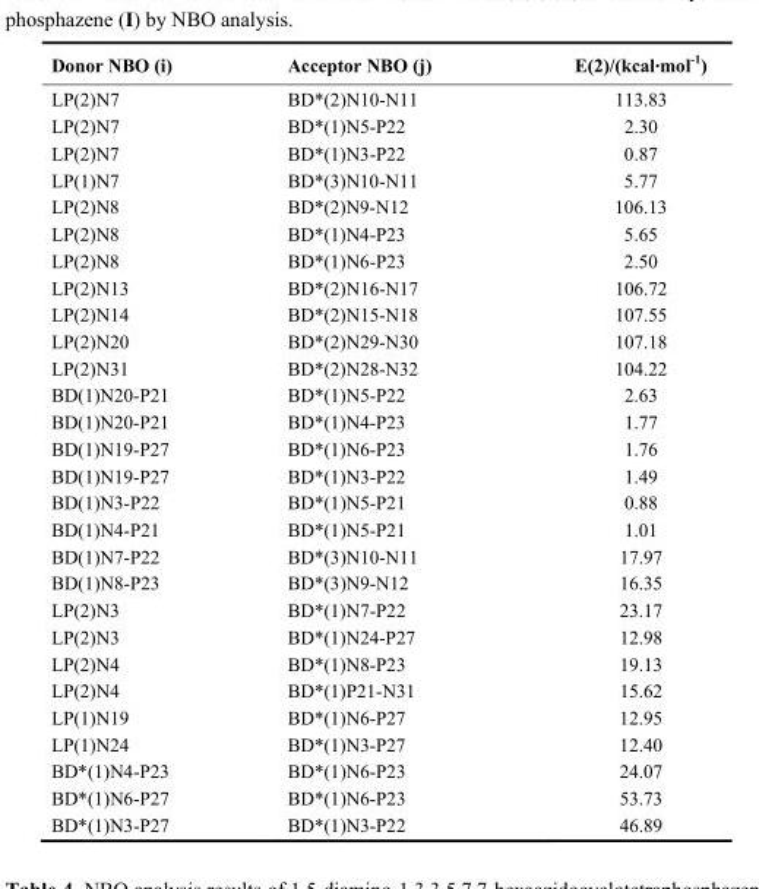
<table><thead><tr><td>Donor NBO (i)</td><td>Acceptor NBO (j)</td><td>E(2)/(kcal·mol<sup>-1</sup>)</td></tr></thead><tbody><tr><td>LP(2)N7</td><td>BD*(2)N10-N11</td><td>113.83</td></tr><tr><td>LP(2)N7</td><td>BD*(1)N5-P22</td><td>2.30</td></tr><tr><td>LP(2)N7</td><td>BD*(1)N3-P22</td><td>0.87</td></tr><tr><td>LP(1)N7</td><td>BD*(3)N10-N11</td><td>5.77</td></tr><tr><td>LP(2)N8</td><td>BD*(2)N9-N12</td><td>106.13</td></tr><tr><td>LP(2)N8</td><td>BD*(1)N4-P23</td><td>5.65</td></tr><tr><td>LP(2)N8</td><td>BD*(1)N6-P23</td><td>2.50</td></tr><tr><td>LP(2)N13</td><td>BD*(2)N16-N17</td><td>106.72</td></tr><tr><td>LP(2)N14</td><td>BD*(2)N15-N18</td><td>107.55</td></tr><tr><td>LP(2)N20</td><td>BD*(2)N29-N30</td><td>107.18</td></tr><tr><td>LP(2)N31</td><td>BD*(2)N28-N32</td><td>104.22</td></tr><tr><td>BD(1)N20-P21</td><td>BD*(1)N5-P22</td><td>2.63</td></tr><tr><td>BD(1)N20-P21</td><td>BD*(1)N4-P23</td><td>1.77</td></tr><tr><td>BD(1)N19-P27</td><td>BD*(1)N6-P23</td><td>1.76</td></tr><tr><td>BD(1)N19-P27</td><td>BD*(1)N3-P22</td><td>1.49</td></tr><tr><td>BD(1)N3-P22</td><td>BD*(1)N5-P21</td><td>0.88</td></tr><tr><td>BD(1)N4-P21</td><td>BD*(1)N5-P21</td><td>1.01</td></tr><tr><td>BD(1)N7-P22</td><td>BD*(3)N10-N11</td><td>17.97</td></tr><tr><td>BD(1)N8-P23</td><td>BD*(3)N9-N12</td><td>16.35</td></tr><tr><td>LP(2)N3</td><td>BD*(1)N7-P22</td><td>23.17</td></tr><tr><td>LP(2)N3</td><td>BD*(1)N24-P27</td><td>12.98</td></tr><tr><td>LP(2)N4</td><td>BD*(1)N8-P23</td><td>19.13</td></tr><tr><td>LP(2)N4</td><td>BD*(1)P21-N31</td><td>15.62</td></tr><tr><td>LP(1)N19</td><td>BD*(1)N6-P27</td><td>12.95</td></tr><tr><td>LP(1)N24</td><td>BD*(1)N3-P27</td><td>12.40</td></tr><tr><td>BD*(1)N4-P23</td><td>BD*(1)N6-P23</td><td>24.07</td></tr><tr><td>BD*(1)N6-P27</td><td>BD*(1)N6-P23</td><td>53.73</td></tr><tr><td>BD*(1)N3-P27</td><td>BD*(1)N3-P22</td><td>46.89</td></tr></tbody></table>